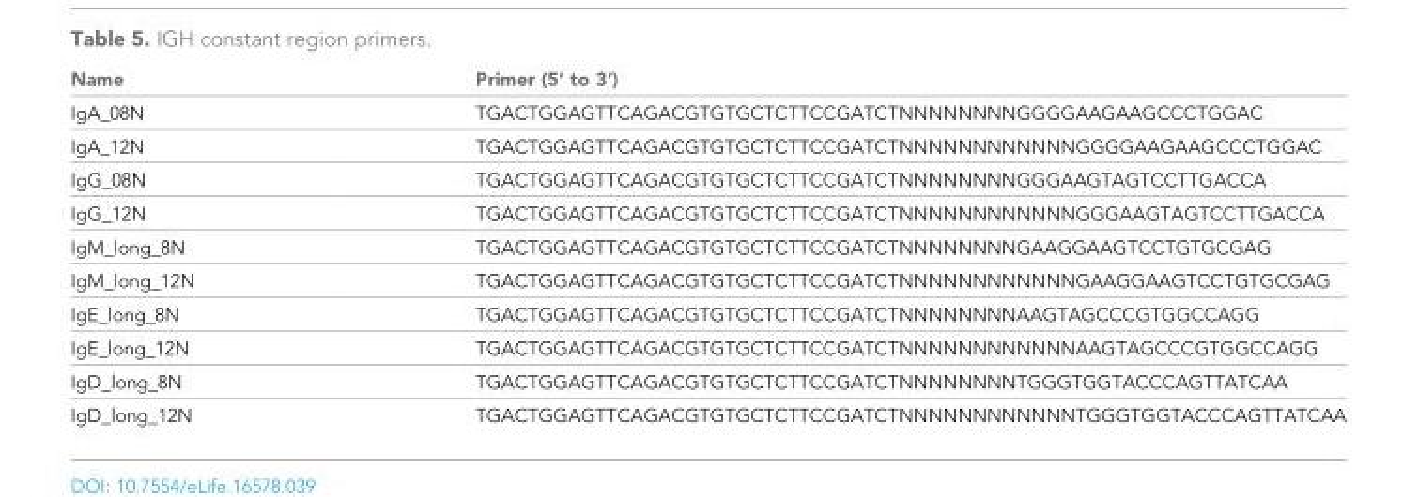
<table><thead><tr><td>Name</td><td>Primer (5’ to 3’)</td></tr></thead><tbody><tr><td>IgA_08N</td><td>TGACTGGAGTTCAGACGTGTGCTCTTCCGATCTNNNNNNNNGGGGAAGAAGCCCTGGAC</td></tr><tr><td>IgA_12N</td><td>TGACTGGAGTTCAGACGTGTGCTCTTCCGATCTNNNNNNNNNNNNGGGGAAGAAGCCCTGGAC</td></tr><tr><td>IgG_08N</td><td>TGACTGGAGTTCAGACGTGTGCTCTTCCGATCTNNNNNNNNGGGAAGTAGTCCTTGACCA</td></tr><tr><td>IgG_12N</td><td>TGACTGGAGTTCAGACGTGTGCTCTTCCGATCTNNNNNNNNNNNNGGGAAGTAGTCCTTGACCA</td></tr><tr><td>IgM_long_8N</td><td>TGACTGGAGTTCAGACGTGTGCTCTTCCGATCTNNNNNNNNGAAGGAAGTCCTGTGCGAG</td></tr><tr><td>IgM_long_12N</td><td>TGACTGGAGTTCAGACGTGTGCTCTTCCGATCTNNNNNNNNNNNNGAAGGAAGTCCTGTGCGAG</td></tr><tr><td>IgE_long_8N</td><td>TGACTGGAGTTCAGACGTGTGCTCTTCCGATCTNNNNNNNNAAGTAGCCCGTGGCCAGG</td></tr><tr><td>IgE_long_12N</td><td>TGACTGGAGTTCAGACGTGTGCTCTTCCGATCTNNNNNNNNNNNNAAGTAGCCCGTGGCCAGG</td></tr><tr><td>IgD_long_8N</td><td>TGACTGGAGTTCAGACGTGTGCTCTTCCGATCTNNNNNNNNTGGGTGGTACCCAGTTATCAA</td></tr><tr><td>IgD_long_12N</td><td>TGACTGGAGTTCAGACGTGTGCTCTTCCGATCTNNNNNNNNNNNNTGGGTGGTACCCAGTTATCAA</td></tr></tbody></table>